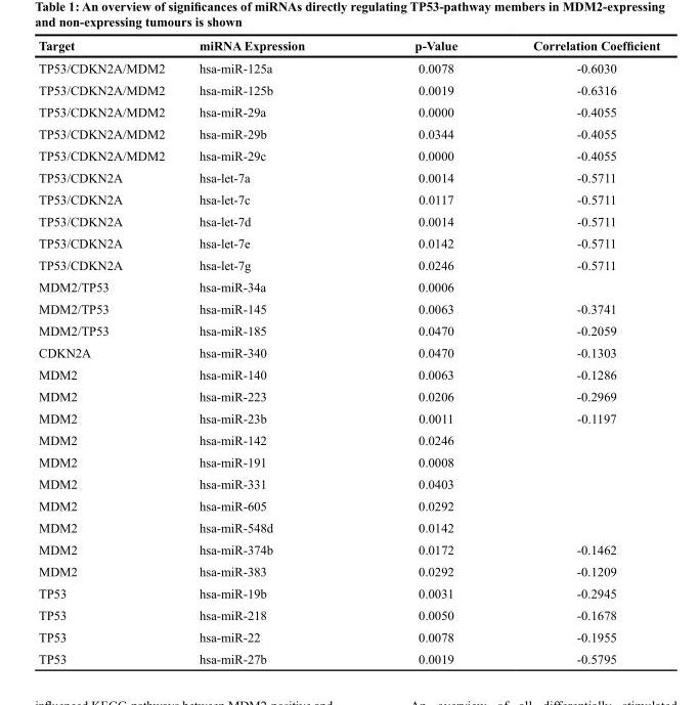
<table><thead><tr><td>Target</td><td>miRNA Expression</td><td>p-Value</td><td>Correlation Coefficient</td></tr></thead><tbody><tr><td>TP53/CDKN2A/MDM2</td><td>hsa-miR-125a</td><td>0.0078</td><td>-0.6030</td></tr><tr><td>TP53/CDKN2A/MDM2</td><td>hsa-miR-125b</td><td>0.0019</td><td>-0.6316</td></tr><tr><td>TP53/CDKN2A/MDM2</td><td>hsa-miR-29a</td><td>0.0000</td><td>-0.4055</td></tr><tr><td>TP53/CDKN2A/MDM2</td><td>hsa-miR-29b</td><td>0.0344</td><td>-0.4055</td></tr><tr><td>TP53/CDKN2A/MDM2</td><td>hsa-miR-29c</td><td>0.0000</td><td>-0.4055</td></tr><tr><td>TP53/CDKN2A</td><td>hsa-let-7a</td><td>0.0014</td><td>-0.5711</td></tr><tr><td>TP53/CDKN2A</td><td>hsa-let-7c</td><td>0.0117</td><td>-0.5711</td></tr><tr><td>TP53/CDKN2A</td><td>hsa-let-7d</td><td>0.0014</td><td>-0.5711</td></tr><tr><td>TP53/CDKN2A</td><td>hsa-let-7e</td><td>0.0142</td><td>-0.5711</td></tr><tr><td>TP53/CDKN2A</td><td>hsa-let-7g</td><td>0.0246</td><td>-0.5711</td></tr><tr><td>MDM2/TP53</td><td>hsa-miR-34a</td><td>0.0006</td><td></td></tr><tr><td>MDM2/TP53</td><td>hsa-miR-145</td><td>0.0063</td><td>-0.3741</td></tr><tr><td>MDM2/TP53</td><td>hsa-miR-185</td><td>0.0470</td><td>-0.2059</td></tr><tr><td>CDKN2A</td><td>hsa-miR-340</td><td>0.0470</td><td>-0.1303</td></tr><tr><td>MDM2</td><td>hsa-miR-140</td><td>0.0063</td><td>-0.1286</td></tr><tr><td>MDM2</td><td>hsa-miR-223</td><td>0.0206</td><td>-0.2969</td></tr><tr><td>MDM2</td><td>hsa-miR-23b</td><td>0.0011</td><td>-0.1197</td></tr><tr><td>MDM2</td><td>hsa-miR-142</td><td>0.0246</td><td></td></tr><tr><td>MDM2</td><td>hsa-miR-191</td><td>0.0008</td><td></td></tr><tr><td>MDM2</td><td>hsa-miR-331</td><td>0.0403</td><td></td></tr><tr><td>MDM2</td><td>hsa-miR-605</td><td>0.0292</td><td></td></tr><tr><td>MDM2</td><td>hsa-miR-548d</td><td>0.0142</td><td></td></tr><tr><td>MDM2</td><td>hsa-miR-374b</td><td>0.0172</td><td>-0.1462</td></tr><tr><td>MDM2</td><td>hsa-miR-383</td><td>0.0292</td><td>-0.1209</td></tr><tr><td>TP53</td><td>hsa-miR-19b</td><td>0.0031</td><td>-0.2945</td></tr><tr><td>TP53</td><td>hsa-miR-218</td><td>0.0050</td><td>-0.1678</td></tr><tr><td>TP53</td><td>hsa-miR-22</td><td>0.0078</td><td>-0.1955</td></tr><tr><td>TP53</td><td>hsa-miR-27b</td><td>0.0019</td><td>-0.5795</td></tr></tbody></table>